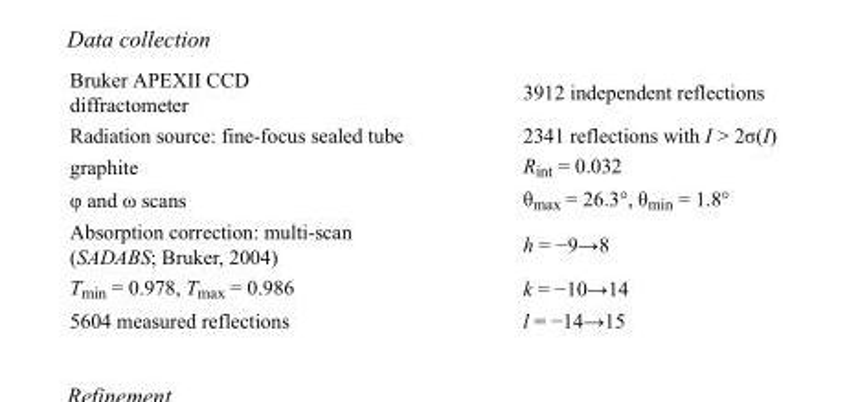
<table><tbody><tr><td>Bruker APEXII CCD diffractometer</td><td>3912 independent reflections</td></tr><tr><td>Radiation source: fine-focus sealed tube</td><td>2341 reflections with I &gt; 2σ(I)</td></tr><tr><td>graphite</td><td>R<sub>int</sub> = 0.032</td></tr><tr><td>φ and ω scans</td><td>θ<sub>max</sub> = 26.3°, θ<sub>min</sub> = 1.8°</td></tr><tr><td>Absorption correction: multi-scan (SADABS; Bruker, 2004)</td><td>h = −9→8</td></tr><tr><td>T<sub>min</sub> = 0.978, T<sub>max</sub> = 0.986</td><td>k = −10→14</td></tr><tr><td>5604 measured reflections</td><td>l = −14→15</td></tr></tbody></table>